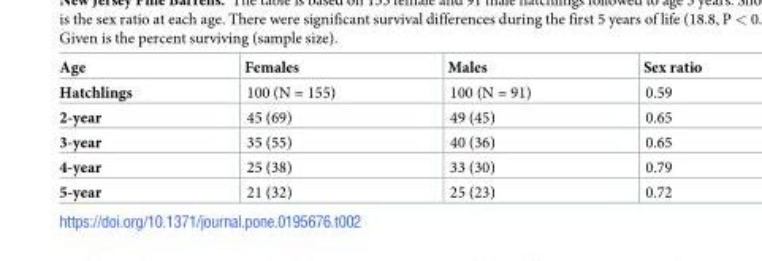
<table><thead><tr><td>Age</td><td>Females</td><td>Males</td><td>Sex ratio</td></tr></thead><tbody><tr><td>Hatchlings</td><td>100 (N = 155)</td><td>100 (N = 91)</td><td>0.59</td></tr><tr><td>2-year</td><td>45 (69)</td><td>49 (45)</td><td>0.65</td></tr><tr><td>3-year</td><td>35 (55)</td><td>40 (36)</td><td>0.65</td></tr><tr><td>4-year</td><td>25 (38)</td><td>33 (30)</td><td>0.79</td></tr><tr><td>5-year</td><td>21 (32)</td><td>25 (23)</td><td>0.72</td></tr></tbody></table>